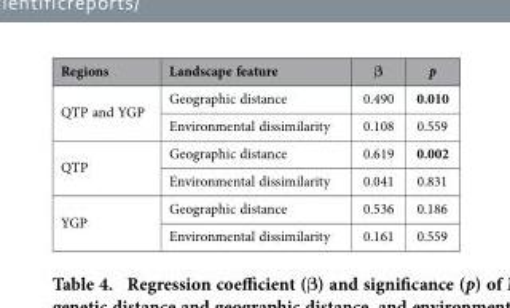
<table><thead><tr><td>Regions</td><td>Landscape feature</td><td>β</td><td>p</td></tr></thead><tbody><tr><td rowspan="2">QTP and YGP</td><td>Geographic distance</td><td>0.490</td><td>0.010</td></tr><tr><td>Environmental dissimilarity</td><td>0.108</td><td>0.559</td></tr><tr><td rowspan="2">QTP</td><td>Geographic distance</td><td>0.619</td><td>0.002</td></tr><tr><td>Environmental dissimilarity</td><td>0.041</td><td>0.831</td></tr><tr><td rowspan="2">YGP</td><td>Geographic distance</td><td>0.536</td><td>0.186</td></tr><tr><td>Environmental dissimilarity</td><td>0.161</td><td>0.559</td></tr></tbody></table>